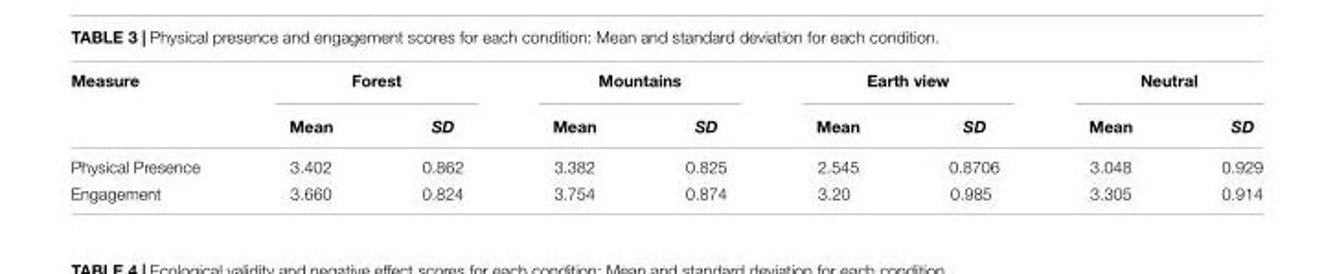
<table><thead><tr><td rowspan="2">Measure</td><td colspan="2">Forest</td><td colspan="2">Mountains</td><td colspan="2">Earth view</td><td colspan="2">Neutral</td></tr><tr><td>Mean</td><td>SD</td><td>Mean</td><td>SD</td><td>Mean</td><td>SD</td><td>Mean</td><td>SD</td></tr></thead><tbody><tr><td>Physical Presence</td><td>3.402</td><td>0.862</td><td>3.382</td><td>0.825</td><td>2.545</td><td>0.8706</td><td>3.048</td><td>0.929</td></tr><tr><td>Engagement</td><td>3.660</td><td>0.824</td><td>3.754</td><td>0.874</td><td>3.20</td><td>0.985</td><td>3.305</td><td>0.914</td></tr></tbody></table>